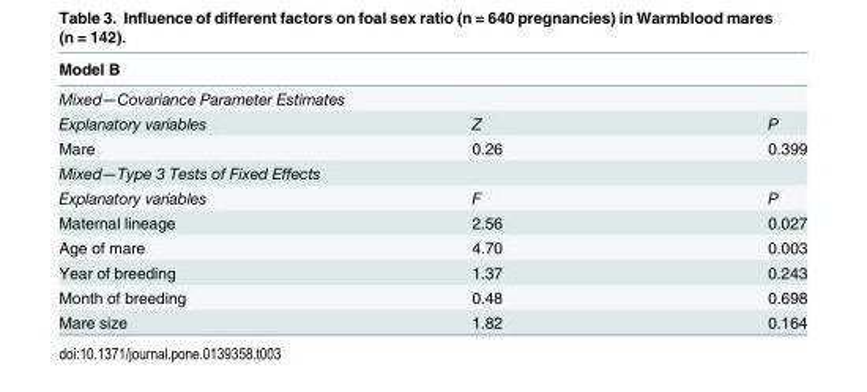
<table><thead><tr><td rowspan="2" colspan="3">Model B Mixed—Covariance Parameter Estimates</td></tr><tr></tr><tr><td>Explanatory variables</td><td>Z</td><td>P</td></tr></thead><tbody><tr><td>Mare</td><td>0.26</td><td>0.399</td></tr><tr><td colspan="3">Mixed—Type 3 Tests of Fixed Effects</td></tr><tr><td>Explanatory variables</td><td>F</td><td>P</td></tr><tr><td>Maternal lineage</td><td>2.56</td><td>0.027</td></tr><tr><td>Age of mare</td><td>4.70</td><td>0.003</td></tr><tr><td>Year of breeding</td><td>1.37</td><td>0.243</td></tr><tr><td>Month of breeding</td><td>0.48</td><td>0.698</td></tr><tr><td>Mare size</td><td>1.82</td><td>0.164</td></tr></tbody></table>